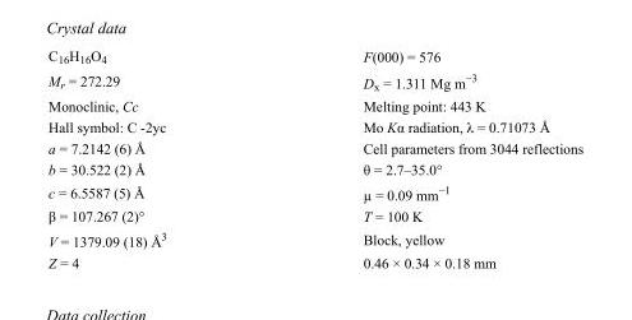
<table><tbody><tr><td>C<sub>16</sub>H<sub>16</sub>O<sub>4</sub></td><td>F(000) = 576</td></tr><tr><td>M<sub>r</sub> = 272.29</td><td>D<sub>x</sub> = 1.311 Mg m<sup>−3</sup></td></tr><tr><td>Monoclinic, Cc</td><td>Melting point: 443 K</td></tr><tr><td>Hall symbol: C -2yc</td><td>Mo Kα radiation, λ = 0.71073 Å</td></tr><tr><td>a = 7.2142 (6) Å</td><td>Cell parameters from 3044 reflections</td></tr><tr><td>b = 30.522 (2) Å</td><td>θ = 2.7–35.0°</td></tr><tr><td>c = 6.5587 (5) Å</td><td>µ = 0.09 mm<sup>−1</sup></td></tr><tr><td>β = 107.267 (2)°</td><td>T = 100 K</td></tr><tr><td>V = 1379.09 (18) Å<sup>3</sup></td><td>Block, yellow</td></tr><tr><td>Z = 4</td><td>0.46 × 0.34 × 0.18 mm</td></tr></tbody></table>